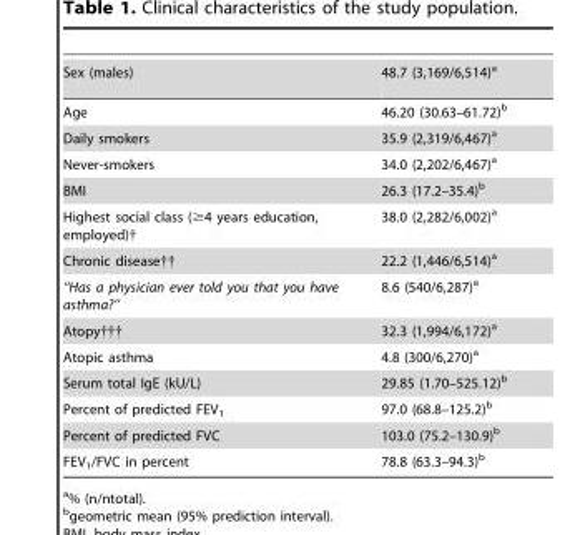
<table><tbody><tr><td>Sex (males)</td><td>48.7 (3,169/6,514)<sup>a</sup></td></tr><tr><td>Age</td><td>46.20 (30.63–61.72)<sup>b</sup></td></tr><tr><td>Daily smokers</td><td>35.9 (2,319/6,467)<sup>a</sup></td></tr><tr><td>Never-smokers</td><td>34.0 (2,202/6,467)<sup>a</sup></td></tr><tr><td>BMI</td><td>26.3 (17.2–35.4)<sup>b</sup></td></tr><tr><td>Highest social class (≥4 years education, employed)†</td><td>38.0 (2,282/6,002)<sup>a</sup></td></tr><tr><td>Chronic disease††</td><td>22.2 (1,446/6,514)<sup>a</sup></td></tr><tr><td>‘‘Has a physician ever told you that you have asthma?’’</td><td>8.6 (540/6,287)<sup>a</sup></td></tr><tr><td>Atopy†††</td><td>32.3 (1,994/6,172)<sup>a</sup></td></tr><tr><td>Atopic asthma</td><td>4.8 (300/6,270)<sup>a</sup></td></tr><tr><td>Serum total IgE (kU/L)</td><td>29.85 (1.70–525.12)<sup>b</sup></td></tr><tr><td>Percent of predicted FEV<sub>1</sub></td><td>97.0 (68.8–125.2)<sup>b</sup></td></tr><tr><td>Percent of predicted FVC</td><td>103.0 (75.2–130.9)<sup>b</sup></td></tr><tr><td>FEV<sub>1</sub>/FVC in percent</td><td>78.8 (63.3–94.3)<sup>b</sup></td></tr></tbody></table>